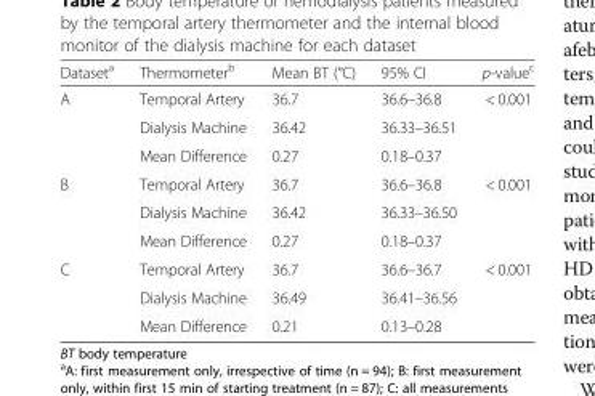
<table><thead><tr><td>Dataset<sup>a</sup></td><td>Thermometer<sup>b</sup></td><td>Mean BT (°C)</td><td>95% CI</td><td>p-value<sup>c</sup></td></tr></thead><tbody><tr><td rowspan="3">A</td><td>Temporal Artery</td><td>36.7</td><td>36.6–36.8</td><td rowspan="2">&lt; 0.001</td></tr><tr><td>Dialysis Machine</td><td>36.42</td><td>36.33–36.51</td></tr><tr><td>Mean Difference</td><td>0.27</td><td>0.18–0.37</td><td></td></tr><tr><td rowspan="3">B</td><td>Temporal Artery</td><td>36.7</td><td>36.6–36.8</td><td rowspan="2">&lt; 0.001</td></tr><tr><td>Dialysis Machine</td><td>36.42</td><td>36.33–36.50</td></tr><tr><td>Mean Difference</td><td>0.27</td><td>0.18–0.37</td><td></td></tr><tr><td rowspan="3">C</td><td>Temporal Artery</td><td>36.7</td><td>36.6–36.7</td><td rowspan="2">&lt; 0.001</td></tr><tr><td>Dialysis Machine</td><td>36.49</td><td>36.41–36.56</td></tr><tr><td>Mean Difference</td><td>0.21</td><td>0.13–0.28</td><td></td></tr></tbody></table>